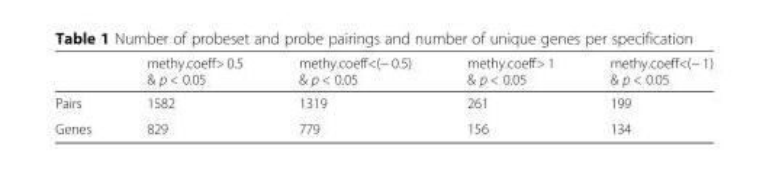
<table><thead><tr><td></td><td>methy.coeff&gt; 0.5 &amp; p &lt; 0.05</td><td>methy.coeff&lt;(− 0.5) &amp; p &lt; 0.05</td><td>methy.coeff&gt; 1 &amp; p &lt; 0.05</td><td>methy.coeff&lt;(− 1) &amp; p &lt; 0.05</td></tr></thead><tbody><tr><td>Pairs</td><td>1582</td><td>1319</td><td>261</td><td>199</td></tr><tr><td>Genes</td><td>829</td><td>779</td><td>156</td><td>134</td></tr></tbody></table>